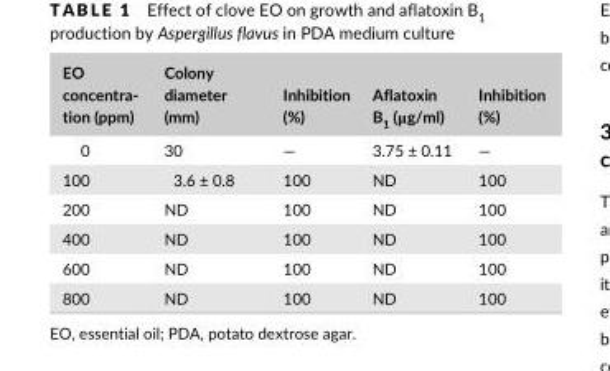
<table><thead><tr><td>EO concentra- tion (ppm)</td><td>Colony diameter (mm)</td><td>Inhibition (%)</td><td>Aflatoxin B<sub>1</sub> (μg/ml)</td><td>Inhibition (%)</td></tr></thead><tbody><tr><td>0</td><td>30</td><td>—</td><td>3.75 ± 0.11</td><td>—</td></tr><tr><td>100</td><td>3.6 ± 0.8</td><td>100</td><td>ND</td><td>100</td></tr><tr><td>200</td><td>ND</td><td>100</td><td>ND</td><td>100</td></tr><tr><td>400</td><td>ND</td><td>100</td><td>ND</td><td>100</td></tr><tr><td>600</td><td>ND</td><td>100</td><td>ND</td><td>100</td></tr><tr><td>800</td><td>ND</td><td>100</td><td>ND</td><td>100</td></tr></tbody></table>